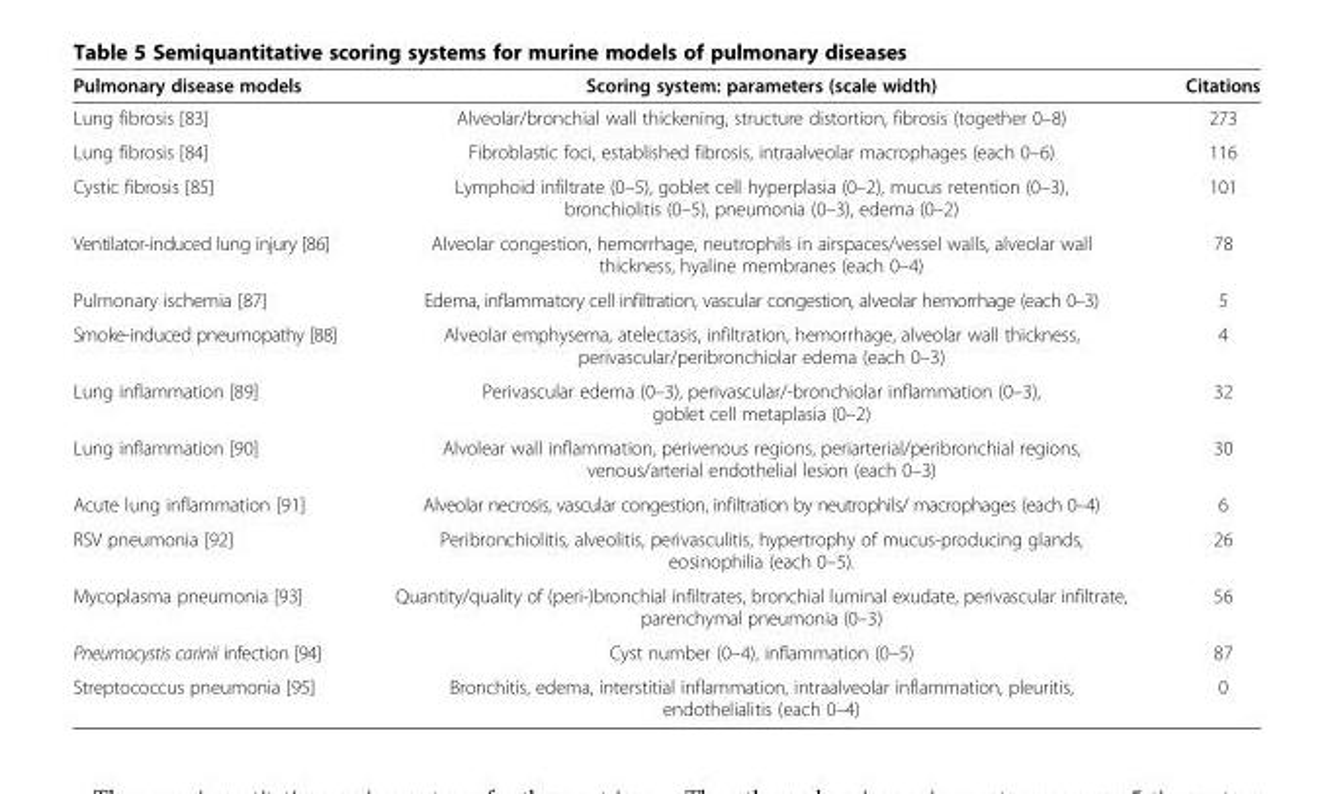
<table><thead><tr><td>Pulmonary disease models</td><td>Scoring system: parameters (scale width)</td><td>Citations</td></tr></thead><tbody><tr><td>Lung fibrosis [83]</td><td>Alveolar/bronchial wall thickening, structure distortion, fibrosis (together 0–8)</td><td>273</td></tr><tr><td>Lung fibrosis [84]</td><td>Fibroblastic foci, established fibrosis, intraalveolar macrophages (each 0–6)</td><td>116</td></tr><tr><td>Cystic fibrosis [85]</td><td>Lymphoid infiltrate (0–5), goblet cell hyperplasia (0–2), mucus retention (0–3), bronchiolitis (0–5), pneumonia (0–3), edema (0–2)</td><td>101</td></tr><tr><td>Ventilator-induced lung injury [86]</td><td>Alveolar congestion, hemorrhage, neutrophils in airspaces/vessel walls, alveolar wall thickness, hyaline membranes (each 0–4)</td><td>78</td></tr><tr><td>Pulmonary ischemia [87]</td><td>Edema, inflammatory cell infiltration, vascular congestion, alveolar hemorrhage (each 0–3)</td><td>5</td></tr><tr><td>Smoke-induced pneumopathy [88]</td><td>Alveolar emphysema, atelectasis, infiltration, hemorrhage, alveolar wall thickness, perivascular/peribronchiolar edema (each 0–3)</td><td>4</td></tr><tr><td>Lung inflammation [89]</td><td>Perivascular edema (0–3), perivascular/-bronchiolar inflammation (0–3), goblet cell metaplasia (0–2)</td><td>32</td></tr><tr><td>Lung inflammation [90]</td><td>Alvolear wall inflammation, perivenous regions, periarterial/peribronchial regions, venous/arterial endothelial lesion (each 0–3)</td><td>30</td></tr><tr><td>Acute lung inflammation [91]</td><td>Alveolar necrosis, vascular congestion, infiltration by neutrophils/ macrophages (each 0–4)</td><td>6</td></tr><tr><td>RSV pneumonia [92]</td><td>Peribronchiolitis, alveolitis, perivasculitis, hypertrophy of mucus-producing glands, eosinophilia (each 0–5).</td><td>26</td></tr><tr><td>Mycoplasma pneumonia [93]</td><td>Quantity/quality of (peri-)bronchial infiltrates, bronchial luminal exudate, perivascular infiltrate, parenchymal pneumonia (0–3)</td><td>56</td></tr><tr><td>Pneumocystis carinii infection [94]</td><td>Cyst number (0–4), inflammation (0–5)</td><td>87</td></tr><tr><td>Streptococcus pneumonia [95]</td><td>Bronchitis, edema, interstitial inflammation, intraalveolar inflammation, pleuritis, endothelialitis (each 0–4)</td><td>0</td></tr></tbody></table>